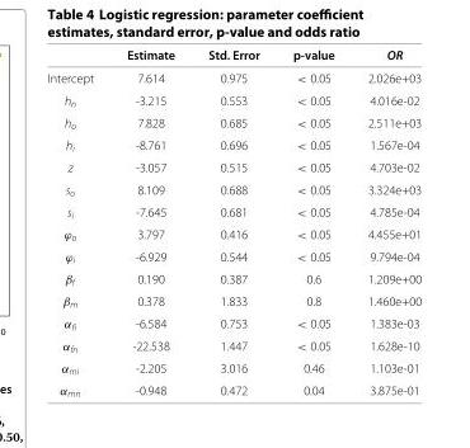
<table><thead><tr><td></td><td>Estimate</td><td>Std. Error</td><td>p-value</td><td>OR</td></tr></thead><tbody><tr><td>Intercept</td><td>7.614</td><td>0.975</td><td>&lt; 0.05</td><td>2.026e+03</td></tr><tr><td>h<sub>n</sub></td><td>-3.215</td><td>0.553</td><td>&lt; 0.05</td><td>4.016e-02</td></tr><tr><td>h<sub>o</sub></td><td>7.828</td><td>0.685</td><td>&lt; 0.05</td><td>2.511e+03</td></tr><tr><td>h<sub>i</sub></td><td>-8.761</td><td>0.696</td><td>&lt; 0.05</td><td>1.567e-04</td></tr><tr><td>z</td><td>-3.057</td><td>0.515</td><td>&lt; 0.05</td><td>4.703e-02</td></tr><tr><td>s<sub>o</sub></td><td>8.109</td><td>0.688</td><td>&lt; 0.05</td><td>3.324e+03</td></tr><tr><td>s<sub>i</sub></td><td>-7.645</td><td>0.681</td><td>&lt; 0.05</td><td>4.785e-04</td></tr><tr><td>ϕ<sub>o</sub></td><td>3.797</td><td>0.416</td><td>&lt; 0.05</td><td>4.455e+01</td></tr><tr><td>ϕ<sub>i</sub></td><td>-6.929</td><td>0.544</td><td>&lt; 0.05</td><td>9.794e-04</td></tr><tr><td>β<sub>f</sub></td><td>0.190</td><td>0.387</td><td>0.6</td><td>1.209e+00</td></tr><tr><td>β<sub>m</sub></td><td>0.378</td><td>1.833</td><td>0.8</td><td>1.460e+00</td></tr><tr><td>α<sub>fi</sub></td><td>-6.584</td><td>0.753</td><td>&lt; 0.05</td><td>1.383e-03</td></tr><tr><td>α<sub>fn</sub></td><td>-22.538</td><td>1.447</td><td>&lt; 0.05</td><td>1.628e-10</td></tr><tr><td>α<sub>mi</sub></td><td>-2.205</td><td>3.016</td><td>0.46</td><td>1.103e-01</td></tr><tr><td>α<sub>mn</sub></td><td>-0.948</td><td>0.472</td><td>0.04</td><td>3.875e-01</td></tr></tbody></table>